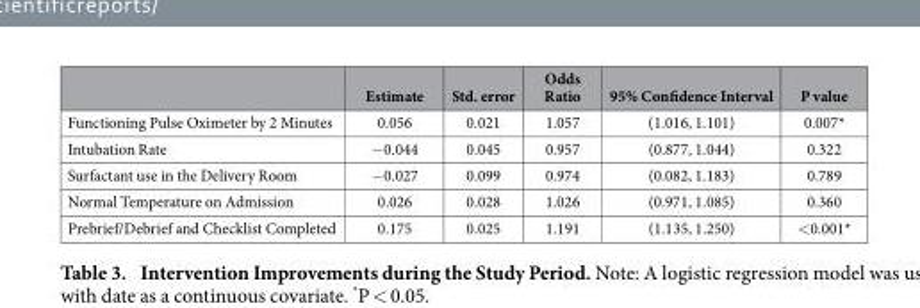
<table><thead><tr><td></td><td>Estimate</td><td>Std. error</td><td>Odds Ratio</td><td>95% Confidence Interval</td><td>P value</td></tr></thead><tbody><tr><td>Functioning Pulse Oximeter by 2 Minutes</td><td>0.056</td><td>0.021</td><td>1.057</td><td>(1.016, 1.101)</td><td>0.007*</td></tr><tr><td>Intubation Rate</td><td>− 0.044</td><td>0.045</td><td>0.957</td><td>(0.877, 1.044)</td><td>0.322</td></tr><tr><td>Surfactant use in the Delivery Room</td><td>− 0.027</td><td>0.099</td><td>0.974</td><td>(0.082, 1.183)</td><td>0.789</td></tr><tr><td>Normal Temperature on Admission</td><td>0.026</td><td>0.028</td><td>1.026</td><td>(0.971, 1.085)</td><td>0.360</td></tr><tr><td>Prebrief/Debrief and Checklist Completed</td><td>0.175</td><td>0.025</td><td>1.191</td><td>(1.135, 1.250)</td><td>&lt; 0.001*</td></tr></tbody></table>